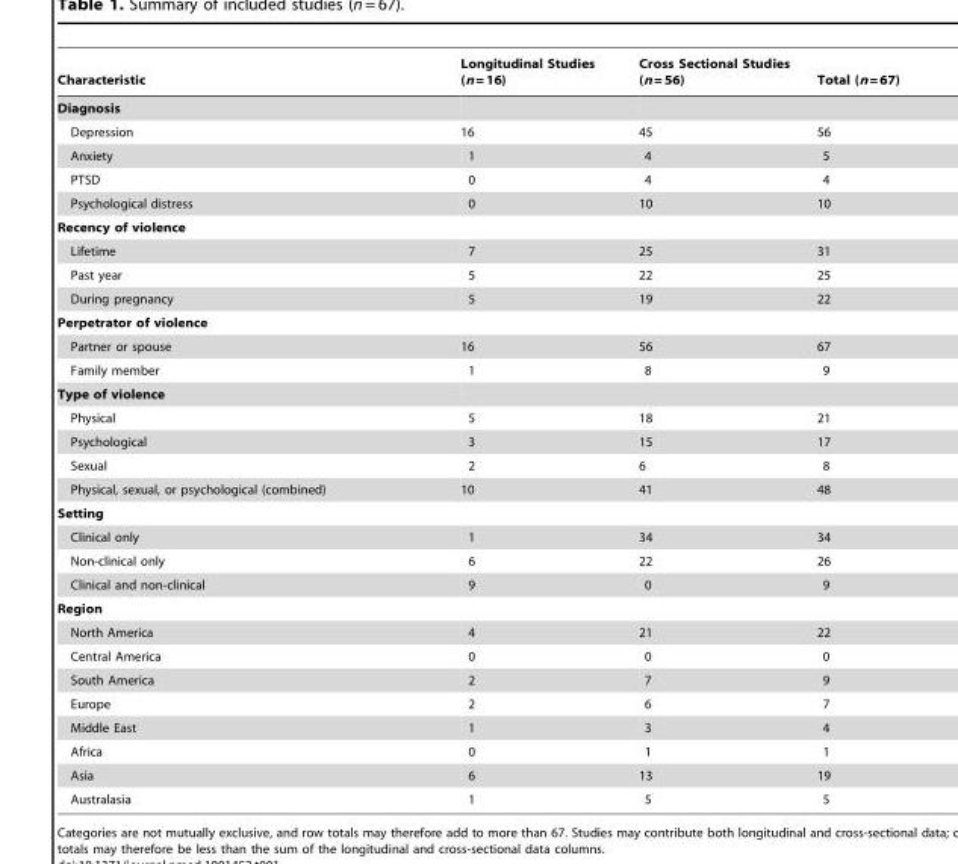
<table><thead><tr><td>Characteristic</td><td>Longitudinal Studies (n = 16)</td><td>Cross Sectional Studies (n = 56)</td><td>Total (n = 67)</td></tr></thead><tbody><tr><td colspan="4">Diagnosis</td></tr><tr><td>Depression</td><td>16</td><td>45</td><td>56</td></tr><tr><td>Anxiety</td><td>1</td><td>4</td><td>5</td></tr><tr><td>PTSD</td><td>0</td><td>4</td><td>4</td></tr><tr><td>Psychological distress</td><td>0</td><td>10</td><td>10</td></tr><tr><td colspan="4">Recency of violence</td></tr><tr><td>Lifetime</td><td>7</td><td>25</td><td>31</td></tr><tr><td>Past year</td><td>5</td><td>22</td><td>25</td></tr><tr><td>During pregnancy</td><td>5</td><td>19</td><td>22</td></tr><tr><td colspan="4">Perpetrator of violence</td></tr><tr><td>Partner or spouse</td><td>16</td><td>56</td><td>67</td></tr><tr><td>Family member</td><td>1</td><td>8</td><td>9</td></tr><tr><td colspan="4">Type of violence</td></tr><tr><td>Physical</td><td>5</td><td>18</td><td>21</td></tr><tr><td>Psychological</td><td>3</td><td>15</td><td>17</td></tr><tr><td>Sexual</td><td>2</td><td>6</td><td>8</td></tr><tr><td>Physical, sexual, or psychological (combined)</td><td>10</td><td>41</td><td>48</td></tr><tr><td colspan="4">Setting</td></tr><tr><td>Clinical only</td><td>1</td><td>34</td><td>34</td></tr><tr><td>Non-clinical only</td><td>6</td><td>22</td><td>26</td></tr><tr><td>Clinical and non-clinical</td><td>9</td><td>0</td><td>9</td></tr><tr><td colspan="4">Region</td></tr><tr><td>North America</td><td>4</td><td>21</td><td>22</td></tr><tr><td>Central America</td><td>0</td><td>0</td><td>0</td></tr><tr><td>South America</td><td>2</td><td>7</td><td>9</td></tr><tr><td>Europe</td><td>2</td><td>6</td><td>7</td></tr><tr><td>Middle East</td><td>1</td><td>3</td><td>4</td></tr><tr><td>Africa</td><td>0</td><td>1</td><td>1</td></tr><tr><td>Asia</td><td>6</td><td>13</td><td>19</td></tr><tr><td>Australasia</td><td>1</td><td>5</td><td>5</td></tr></tbody></table>